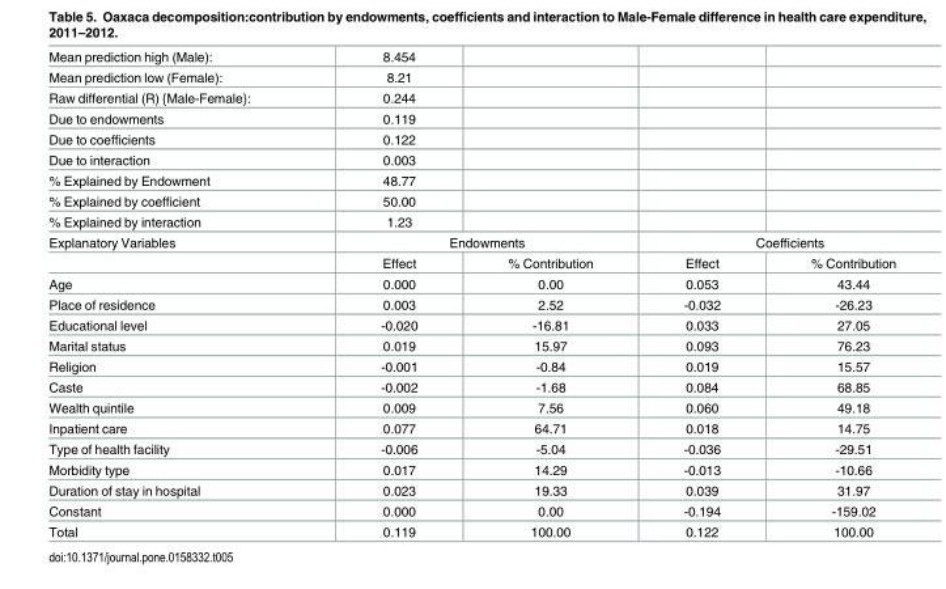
<table><tbody><tr><td>Mean prediction high (Male):</td><td>8.454</td><td></td><td></td><td></td></tr><tr><td>Mean prediction low (Female):</td><td>8.21</td><td></td><td></td><td></td></tr><tr><td>Raw differential (R) {Male-Female}:</td><td>0.244</td><td></td><td></td><td></td></tr><tr><td>Due to endowments</td><td>0.119</td><td></td><td></td><td></td></tr><tr><td>Due to coefficients</td><td>0.122</td><td></td><td></td><td></td></tr><tr><td>Due to interaction</td><td>0.003</td><td></td><td></td><td></td></tr><tr><td>% Explained by Endowment</td><td>48.77</td><td></td><td></td><td></td></tr><tr><td>% Explained by coefficient</td><td>50.00</td><td></td><td></td><td></td></tr><tr><td>% Explained by interaction</td><td>1.23</td><td></td><td></td><td></td></tr><tr><td rowspan="2">Explanatory Variables</td><td colspan="2">Endowments</td><td colspan="2">Coefficients</td></tr><tr><td>Effect</td><td>% Contribution</td><td>Effect</td><td>% Contribution</td></tr><tr><td>Age</td><td>0.000</td><td>0.00</td><td>0.053</td><td>43.44</td></tr><tr><td>Place of residence</td><td>0.003</td><td>2.52</td><td>-0.032</td><td>-26.23</td></tr><tr><td>Educational level</td><td>-0.020</td><td>-16.81</td><td>0.033</td><td>27.05</td></tr><tr><td>Marital status</td><td>0.019</td><td>15.97</td><td>0.093</td><td>76.23</td></tr><tr><td>Religion</td><td>-0.001</td><td>-0.84</td><td>0.019</td><td>15.57</td></tr><tr><td>Caste</td><td>-0.002</td><td>-1.68</td><td>0.084</td><td>68.85</td></tr><tr><td>Wealth quintile</td><td>0.009</td><td>7.56</td><td>0.060</td><td>49.18</td></tr><tr><td>Inpatient care</td><td>0.077</td><td>64.71</td><td>0.018</td><td>14.75</td></tr><tr><td>Type of health facility</td><td>-0.006</td><td>-5.04</td><td>-0.036</td><td>-29.51</td></tr><tr><td>Morbidity type</td><td>0.017</td><td>14.29</td><td>-0.013</td><td>-10.66</td></tr><tr><td>Duration of stay in hospital</td><td>0.023</td><td>19.33</td><td>0.039</td><td>31.97</td></tr><tr><td>Constant</td><td>0.000</td><td>0.00</td><td>-0.194</td><td>-159.02</td></tr><tr><td>Total</td><td>0.119</td><td>100.00</td><td>0.122</td><td>100.00</td></tr></tbody></table>